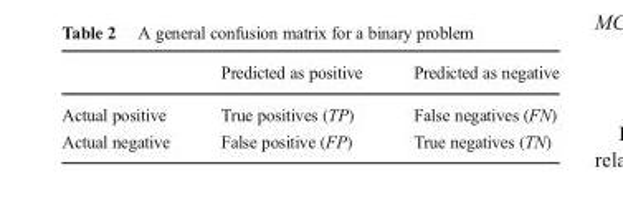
<table><thead><tr><td></td><td>Predicted as positive</td><td>Predicted as negative</td></tr></thead><tbody><tr><td>Actual positive</td><td>True positives (TP)</td><td>False negatives (FN)</td></tr><tr><td>Actual negative</td><td>False positive (FP)</td><td>True negatives (TN)</td></tr></tbody></table>